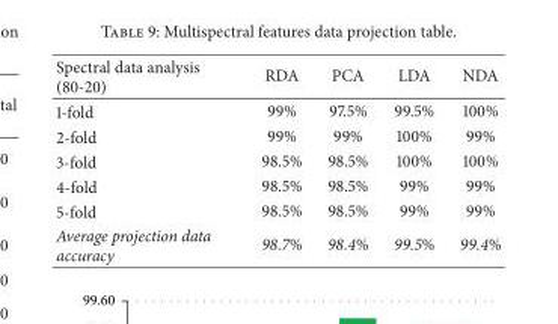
<table><thead><tr><td>Spectral data analysis (80-20)</td><td>RDA</td><td>PCA</td><td>LDA</td><td>NDA</td></tr></thead><tbody><tr><td>1-fold</td><td>99%</td><td>97.5%</td><td>99.5%</td><td>100%</td></tr><tr><td>2-fold</td><td>99%</td><td>99%</td><td>100%</td><td>99%</td></tr><tr><td>3-fold</td><td>98.5%</td><td>98.5%</td><td>100%</td><td>100%</td></tr><tr><td>4-fold</td><td>98.5%</td><td>98.5%</td><td>99%</td><td>99%</td></tr><tr><td>5-fold</td><td>98.5%</td><td>98.5%</td><td>99%</td><td>99%</td></tr><tr><td>Average projection data accuracy</td><td>98.7%</td><td>98.4%</td><td>99.5%</td><td>99.4%</td></tr></tbody></table>